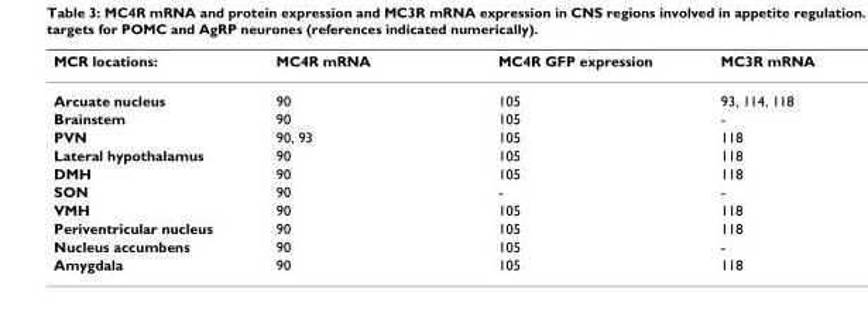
<table><thead><tr><td>MCR locations:</td><td>MC4R mRNA</td><td>MC4R GFP expression</td><td>MC3R mRNA</td></tr></thead><tbody><tr><td>Arcuate nucleus</td><td>90</td><td>105</td><td>93, 114, 118</td></tr><tr><td>Brainstem</td><td>90</td><td>105</td><td>-</td></tr><tr><td>PVN</td><td>90, 93</td><td>105</td><td>118</td></tr><tr><td>Lateral hypothalamus</td><td>90</td><td>105</td><td>118</td></tr><tr><td>DMH</td><td>90</td><td>105</td><td>118</td></tr><tr><td>SON</td><td>90</td><td>-</td><td>-</td></tr><tr><td>VMH</td><td>90</td><td>105</td><td>118</td></tr><tr><td>Periventricular nucleus</td><td>90</td><td>105</td><td>118</td></tr><tr><td>Nucleus accumbens</td><td>90</td><td>105</td><td>-</td></tr><tr><td>Amygdala</td><td>90</td><td>105</td><td>118</td></tr></tbody></table>